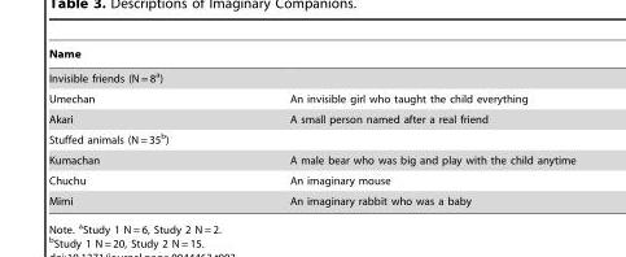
<table><thead><tr><td>Name</td><td></td></tr></thead><tbody><tr><td colspan="2">Invisible friends (N = 8<sup>a</sup>)</td></tr><tr><td>Umechan</td><td>An invisible girl who taught the child everything</td></tr><tr><td>Akari</td><td>A small person named after a real friend</td></tr><tr><td colspan="2">Stuffed animals (N = 35<sup>b</sup>)</td></tr><tr><td>Kumachan</td><td>A male bear who was big and play with the child anytime</td></tr><tr><td>Chuchu</td><td>An imaginary mouse</td></tr><tr><td>Mimi</td><td>An imaginary rabbit who was a baby</td></tr></tbody></table>